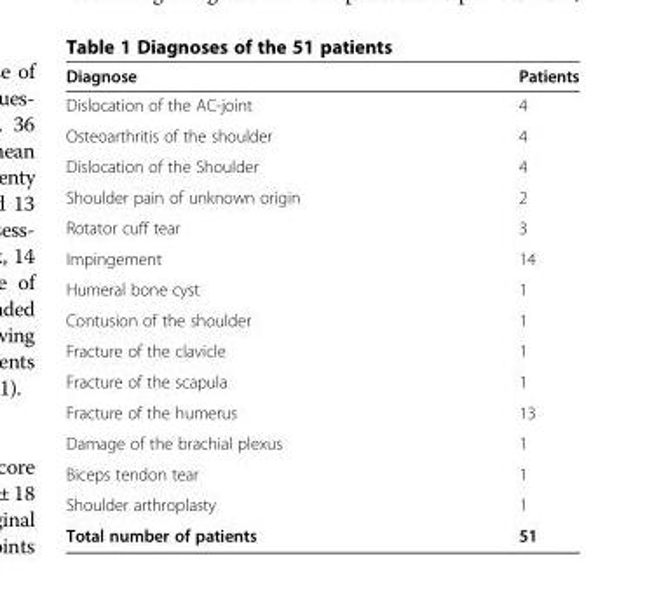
<table><thead><tr><td>Diagnose</td><td>Patients</td></tr></thead><tbody><tr><td>Dislocation of the AC-joint</td><td>4</td></tr><tr><td>Osteoarthritis of the shoulder</td><td>4</td></tr><tr><td>Dislocation of the Shoulder</td><td>4</td></tr><tr><td>Shoulder pain of unknown origin</td><td>2</td></tr><tr><td>Rotator cuff tear</td><td>3</td></tr><tr><td>Impingement</td><td>14</td></tr><tr><td>Humeral bone cyst</td><td>1</td></tr><tr><td>Contusion of the shoulder</td><td>1</td></tr><tr><td>Fracture of the clavicle</td><td>1</td></tr><tr><td>Fracture of the scapula</td><td>1</td></tr><tr><td>Fracture of the humerus</td><td>13</td></tr><tr><td>Damage of the brachial plexus</td><td>1</td></tr><tr><td>Biceps tendon tear</td><td>1</td></tr><tr><td>Shoulder arthroplasty</td><td>1</td></tr><tr><td>Total number of patients</td><td>51</td></tr></tbody></table>